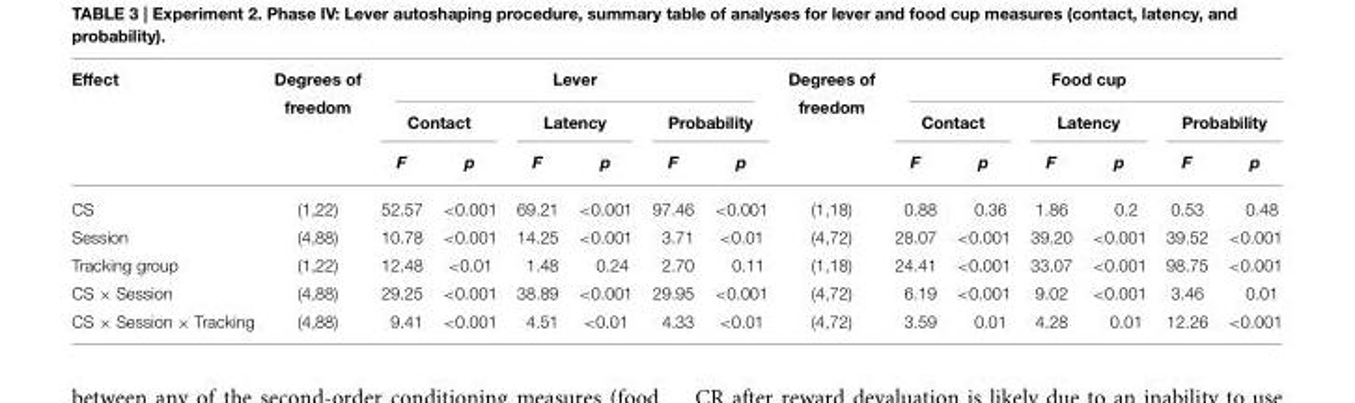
<table><thead><tr><td rowspan="3">Effect</td><td rowspan="3">Degrees of freedom</td><td colspan="6">Lever</td><td rowspan="3">Degrees of freedom</td><td colspan="6">Food cup</td></tr><tr><td colspan="2">Contact</td><td colspan="2">Latency</td><td colspan="2">Probability</td><td colspan="2">Contact</td><td colspan="2">Latency</td><td colspan="2">Probability</td></tr><tr><td>F</td><td>p</td><td>F</td><td>p</td><td>F</td><td>p</td><td>F</td><td>p</td><td>F</td><td>p</td><td>F</td><td>p</td></tr></thead><tbody><tr><td>CS</td><td>(1,22)</td><td>52.57</td><td>&lt;0.001</td><td>69.21</td><td>&lt;0.001</td><td>97.46</td><td>&lt;0.001</td><td>(1,18)</td><td>0.88</td><td>0.36</td><td>1.86</td><td>0.2</td><td>0.53</td><td>0.48</td></tr><tr><td>Session</td><td>(4,88)</td><td>10.78</td><td>&lt;0.001</td><td>14.25</td><td>&lt;0.001</td><td>3.71</td><td>&lt;0.01</td><td>(4,72)</td><td>28.07</td><td>&lt;0.001</td><td>39.20</td><td>&lt;0.001</td><td>39.52</td><td>&lt;0.001</td></tr><tr><td>Tracking group</td><td>(1,22)</td><td>12.48</td><td>&lt;0.01</td><td>1.48</td><td>0.24</td><td>2.70</td><td>0.11</td><td>(1,18)</td><td>24.41</td><td>&lt;0.001</td><td>33.07</td><td>&lt;0.001</td><td>98.75</td><td>&lt;0.001</td></tr><tr><td>CS × Session</td><td>(4,88)</td><td>29.25</td><td>&lt;0.001</td><td>38.89</td><td>&lt;0.001</td><td>29.95</td><td>&lt;0.001</td><td>(4,72)</td><td>6.19</td><td>&lt;0.001</td><td>9.02</td><td>&lt;0.001</td><td>3.46</td><td>0.01</td></tr><tr><td>CS × Session × Tracking</td><td>(4,88)</td><td>9.41</td><td>&lt;0.001</td><td>4.51</td><td>&lt;0.01</td><td>4.33</td><td>&lt;0.01</td><td>(4,72)</td><td>3.59</td><td>0.01</td><td>4.28</td><td>0.01</td><td>12.26</td><td>&lt;0.001</td></tr></tbody></table>